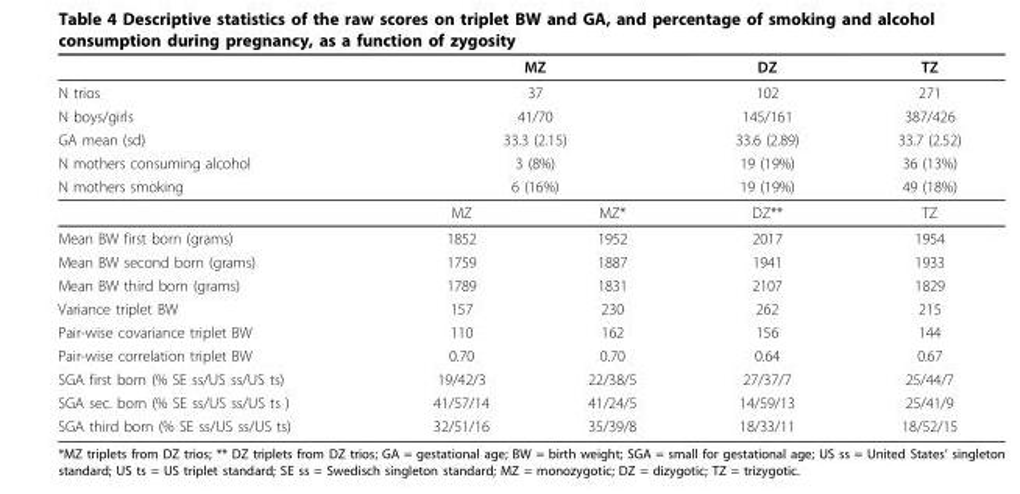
<table><thead><tr><td></td><td colspan="2">MZ</td><td>DZ</td><td>TZ</td></tr></thead><tbody><tr><td>N trios</td><td colspan="2">37</td><td>102</td><td>271</td></tr><tr><td>N boys/girls</td><td colspan="2">41/70</td><td>145/161</td><td>387/426</td></tr><tr><td>GA mean (sd)</td><td colspan="2">33.3 (2.15)</td><td>33.6 (2.89)</td><td>33.7 (2.52)</td></tr><tr><td>N mothers consuming alcohol</td><td colspan="2">3 (8%)</td><td>19 (19%)</td><td>36 (13%)</td></tr><tr><td rowspan="2">N mothers smoking</td><td colspan="2">6 (16%)</td><td>19 (19%)</td><td>49 (18%)</td></tr><tr><td>MZ</td><td>MZ*</td><td>DZ**</td><td>TZ</td></tr><tr><td>Mean BW first born (grams)</td><td>1852</td><td>1952</td><td>2017</td><td>1954</td></tr><tr><td>Mean BW second born (grams)</td><td>1759</td><td>1887</td><td>1941</td><td>1933</td></tr><tr><td>Mean BW third born (grams)</td><td>1789</td><td>1831</td><td>2107</td><td>1829</td></tr><tr><td>Variance triplet BW</td><td>157</td><td>230</td><td>262</td><td>215</td></tr><tr><td>Pair-wise covariance triplet BW</td><td>110</td><td>162</td><td>156</td><td>144</td></tr><tr><td>Pair-wise correlation triplet BW</td><td>0.70</td><td>0.70</td><td>0.64</td><td>0.67</td></tr><tr><td>SGA first born (% SE ss/US ss/US ts)</td><td>19/42/3</td><td>22/38/5</td><td>27/37/7</td><td>25/44/7</td></tr><tr><td>SGA sec. born (% SE ss/US ss/US ts )</td><td>41/57/14</td><td>41/24/5</td><td>14/59/13</td><td>25/41/9</td></tr><tr><td>SGA third born (% SE ss/US ss/US ts)</td><td>32/51/16</td><td>35/39/8</td><td>18/33/11</td><td>18/52/15</td></tr></tbody></table>